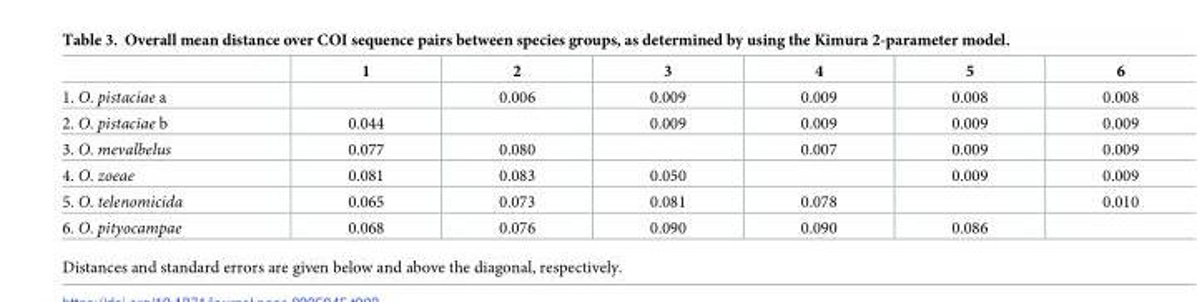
<table><thead><tr><td></td><td>1</td><td>2</td><td>3</td><td>4</td><td>5</td><td>6</td></tr></thead><tbody><tr><td>1. O. pistaciae a</td><td></td><td>0.006</td><td>0.009</td><td>0.009</td><td>0.008</td><td>0.008</td></tr><tr><td>2. O. pistaciae b</td><td>0.044</td><td></td><td>0.009</td><td>0.009</td><td>0.009</td><td>0.009</td></tr><tr><td>3. O. mevalbelus</td><td>0.077</td><td>0.080</td><td></td><td>0.007</td><td>0.009</td><td>0.009</td></tr><tr><td>4. O. zoeae</td><td>0.081</td><td>0.083</td><td>0.050</td><td></td><td>0.009</td><td>0.009</td></tr><tr><td>5. O. telenomicida</td><td>0.065</td><td>0.073</td><td>0.081</td><td>0.078</td><td></td><td>0.010</td></tr><tr><td>6. O. pityocampae</td><td>0.068</td><td>0.076</td><td>0.090</td><td>0.090</td><td>0.086</td><td></td></tr></tbody></table>